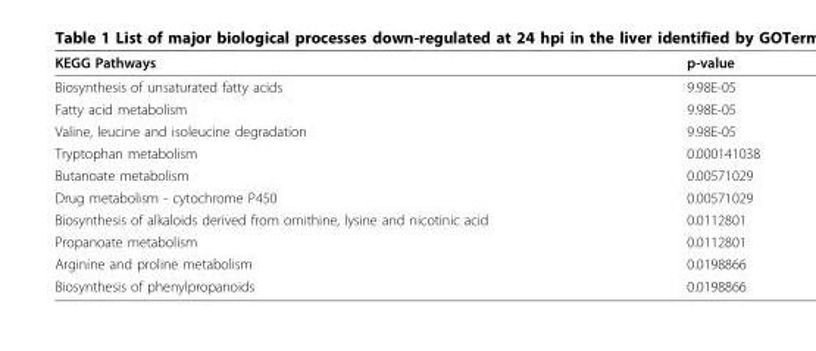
<table><thead><tr><td>KEGG Pathways</td><td>p-value</td></tr></thead><tbody><tr><td>Biosynthesis of unsaturated fatty acids</td><td>9.98E-05</td></tr><tr><td>Fatty acid metabolism</td><td>9.98E-05</td></tr><tr><td>Valine, leucine and isoleucine degradation</td><td>9.98E-05</td></tr><tr><td>Tryptophan metabolism</td><td>0.000141038</td></tr><tr><td>Butanoate metabolism</td><td>0.00571029</td></tr><tr><td>Drug metabolism - cytochrome P450</td><td>0.00571029</td></tr><tr><td>Biosynthesis of alkaloids derived from ornithine, lysine and nicotinic acid</td><td>0.0112801</td></tr><tr><td>Propanoate metabolism</td><td>0.0112801</td></tr><tr><td>Arginine and proline metabolism</td><td>0.0198866</td></tr><tr><td>Biosynthesis of phenylpropanoids</td><td>0.0198866</td></tr></tbody></table>